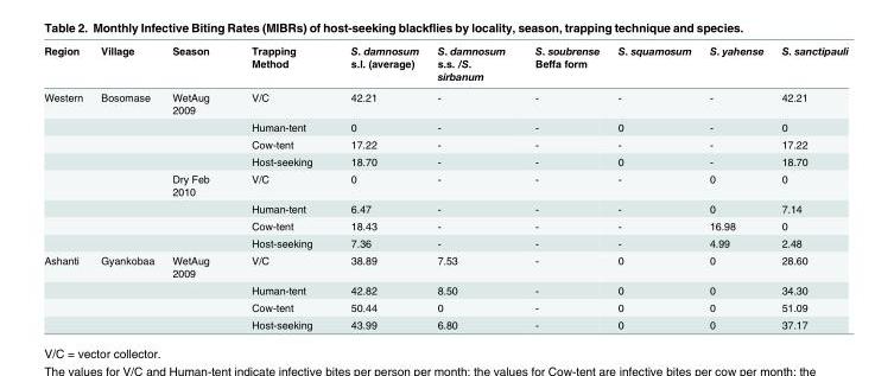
<table><thead><tr><td>Region</td><td>Village</td><td>Season</td><td>Trapping Method</td><td>S. damnosum s.l. (average)</td><td>S. damnosum s.s. /S. sirbanum</td><td>S. soubrense Beffa form</td><td>S. squamosum</td><td>S. yahense</td><td>S. sanctipauli</td></tr></thead><tbody><tr><td rowspan="8">Western</td><td>Bosomase</td><td>WetAug 2009</td><td>V/C</td><td>42.21</td><td>-</td><td>-</td><td>-</td><td>-</td><td>42.21</td></tr><tr><td></td><td></td><td>Human-tent</td><td>0</td><td>-</td><td>-</td><td>0</td><td>-</td><td>0</td></tr><tr><td></td><td></td><td>Cow-tent</td><td>17.22</td><td>-</td><td>-</td><td>-</td><td>-</td><td>17.22</td></tr><tr><td></td><td></td><td>Host-seeking</td><td>18.70</td><td>-</td><td>-</td><td>0</td><td>-</td><td>18.70</td></tr><tr><td></td><td>Dry Feb 2010</td><td>V/C</td><td>0</td><td>-</td><td>-</td><td>-</td><td>0</td><td>0</td></tr><tr><td></td><td></td><td>Human-tent</td><td>6.47</td><td>-</td><td>-</td><td>-</td><td>0</td><td>7.14</td></tr><tr><td></td><td></td><td>Cow-tent</td><td>18.43</td><td>-</td><td>-</td><td>-</td><td>16.98</td><td>0</td></tr><tr><td></td><td></td><td>Host-seeking</td><td>7.36</td><td>-</td><td>-</td><td>-</td><td>4.99</td><td>2.48</td></tr><tr><td rowspan="4">Ashanti</td><td>Gyankobaa</td><td>WetAug 2009</td><td>V/C</td><td>38.89</td><td>7.53</td><td>-</td><td>0</td><td>0</td><td>28.60</td></tr><tr><td></td><td></td><td>Human-tent</td><td>42.82</td><td>8.50</td><td>-</td><td>0</td><td>0</td><td>34.30</td></tr><tr><td></td><td></td><td>Cow-tent</td><td>50.44</td><td>0</td><td>-</td><td>0</td><td>0</td><td>51.09</td></tr><tr><td></td><td></td><td>Host-seeking</td><td>43.99</td><td>6.80</td><td>-</td><td>0</td><td>0</td><td>37.17</td></tr></tbody></table>